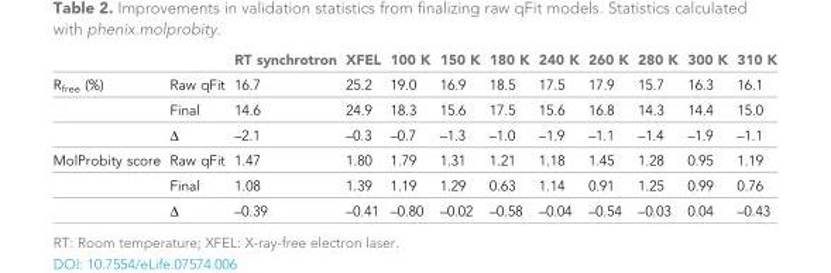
<table><thead><tr><td></td><td></td><td>RT synchrotron</td><td>XFEL</td><td>100 K</td><td>150 K</td><td>180 K</td><td>240 K</td><td>260 K</td><td>280 K</td><td>300 K</td><td>310 K</td></tr></thead><tbody><tr><td rowspan="3">R<sub>free</sub> (%)</td><td>Raw qFit</td><td>16.7</td><td>25.2</td><td>19.0</td><td>16.9</td><td>18.5</td><td>17.5</td><td>17.9</td><td>15.7</td><td>16.3</td><td>16.1</td></tr><tr><td>Final</td><td>14.6</td><td>24.9</td><td>18.3</td><td>15.6</td><td>17.5</td><td>15.6</td><td>16.8</td><td>14.3</td><td>14.4</td><td>15.0</td></tr><tr><td>Δ</td><td>–2.1</td><td>–0.3</td><td>–0.7</td><td>–1.3</td><td>–1.0</td><td>–1.9</td><td>–1.1</td><td>–1.4</td><td>–1.9</td><td>–1.1</td></tr><tr><td rowspan="3">MolProbity score</td><td>Raw qFit</td><td>1.47</td><td>1.80</td><td>1.79</td><td>1.31</td><td>1.21</td><td>1.18</td><td>1.45</td><td>1.28</td><td>0.95</td><td>1.19</td></tr><tr><td>Final</td><td>1.08</td><td>1.39</td><td>1.19</td><td>1.29</td><td>0.63</td><td>1.14</td><td>0.91</td><td>1.25</td><td>0.99</td><td>0.76</td></tr><tr><td>Δ</td><td>–0.39</td><td>–0.41</td><td>–0.80</td><td>–0.02</td><td>–0.58</td><td>–0.04</td><td>–0.54</td><td>–0.03</td><td>0.04</td><td>–0.43</td></tr></tbody></table>